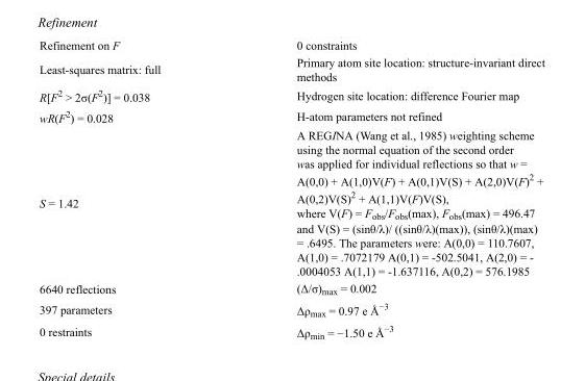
<table><tbody><tr><td>Refinement on F</td><td>0 constraints</td></tr><tr><td>Least-squares matrix: full</td><td>Primary atom site location: structure-invariant direct methods</td></tr><tr><td>R[F<sup>2</sup> &gt; 2σ(F<sup>2</sup>)] = 0.038</td><td>Hydrogen site location: difference Fourier map</td></tr><tr><td>wR(F<sup>2</sup>) = 0.028</td><td>H-atom parameters not refined</td></tr><tr><td>S = 1.42</td><td>A REGINA (Wang et al., 1985) weighting scheme using the normal equation of the second order was applied for individual reflections so that w = A(0,0) + A(1,0)V(F) + A(0,1)V(S) + A(2,0)V(F)<sup>2</sup> + A(0,2)V(S)<sup>2</sup> + A(1,1)V(F)V(S), where V(F) = F<sub>obs</sub>/F<sub>obs</sub>(max), F<sub>obs</sub>(max) = 496.47 and V(S) = (sinθ/λ)/ ((sinθ/λ)(max)), (sinθ/λ)(max) = .6495. The parameters were: A(0,0) = 110.7607, A(1,0) = .7072179 A(0,1) = -502.5041, A(2,0) = - .0004053 A(1,1) = -1.637116, A(0,2) = 576.1985</td></tr><tr><td>6640 reflections</td><td>(Δ/σ)<sub>max</sub> = 0.002</td></tr><tr><td>397 parameters</td><td>Δρ<sub>max</sub> = 0.97 e Å<sup>−3</sup></td></tr><tr><td>0 restraints</td><td>Δρ<sub>min</sub> = −1.50 e Å<sup>−3</sup></td></tr></tbody></table>